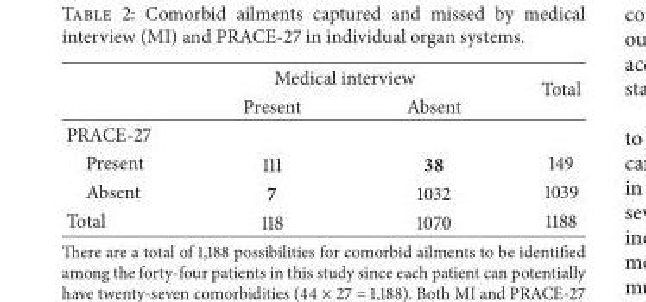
<table><thead><tr><td rowspan="2"></td><td colspan="2">Medical interview</td><td rowspan="2">Total</td></tr><tr><td>Present</td><td>Absent</td></tr></thead><tbody><tr><td colspan="4">PRACE-27</td></tr><tr><td>Present</td><td>111</td><td>38</td><td>149</td></tr><tr><td>Absent</td><td>7</td><td>1032</td><td>1039</td></tr><tr><td>Total</td><td>118</td><td>1070</td><td>1188</td></tr></tbody></table>